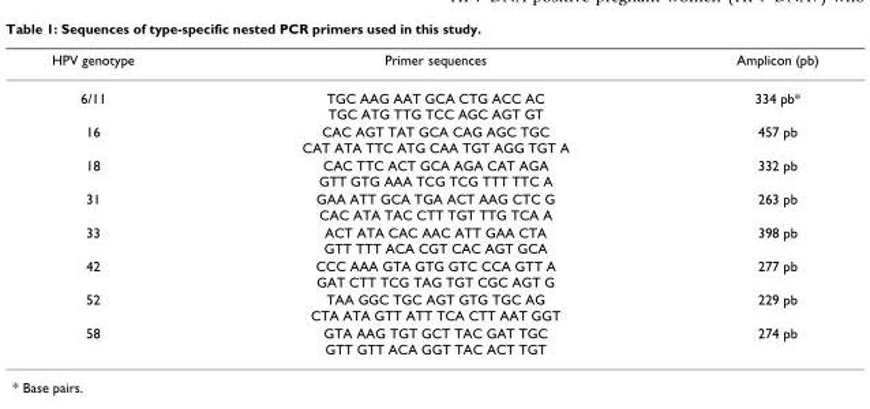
<table><thead><tr><td>HPV genotype</td><td>Primer sequences</td><td>Amplicon (pb)</td></tr></thead><tbody><tr><td>6/11</td><td>TGC AAG AAT GCA CTG ACC AC TGC ATG TTG TCC AGC AGT GT</td><td>334 pb*</td></tr><tr><td>16</td><td>CAC AGT TAT GCA CAG AGC TGC CAT ATA TTC ATG CAA TGT AGG TGT A</td><td>457 pb</td></tr><tr><td>18</td><td>CAC TTC ACT GCA AGA CAT AGA GTT GTG AAA TCG TCG TTT TTC A</td><td>332 pb</td></tr><tr><td>31</td><td>GAA ATT GCA TGA ACT AAG CTC G CAC ATA TAC CTT TGT TTG TCA A</td><td>263 pb</td></tr><tr><td>33</td><td>ACT ATA CAC AAC ATT GAA CTA GTT TTT ACA CGT CAC AGT GCA</td><td>398 pb</td></tr><tr><td>42</td><td>CCC AAA GTA GTG GTC CCA GTT A GAT CTT TCG TAG TGT CGC AGT G</td><td>277 pb</td></tr><tr><td>52</td><td>TAA GGC TGC AGT GTG TGC AG CTA ATA GTT ATT TCA CTT AAT GGT</td><td>229 pb</td></tr><tr><td>58</td><td>GTA AAG TGT GCT TAC GAT TGC GTT GTT ACA GGT TAC ACT TGT</td><td>274 pb</td></tr></tbody></table>